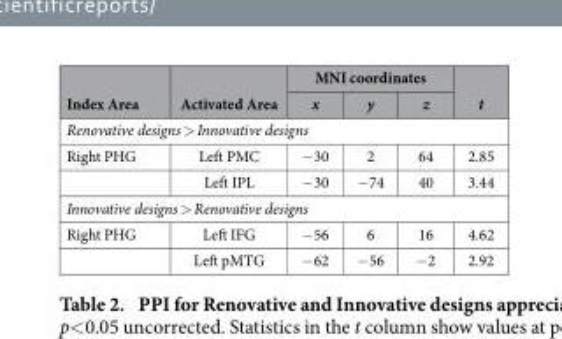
<table><thead><tr><td rowspan="2">Index Area</td><td rowspan="2">Activated Area</td><td colspan="3">MNI coordinates</td><td rowspan="2">t</td></tr><tr><td>x</td><td>y</td><td>z</td></tr></thead><tbody><tr><td colspan="6">Renovative designs &gt; Innovative designs</td></tr><tr><td rowspan="2">Right PHG</td><td>Left PMC</td><td>− 30</td><td>2</td><td>64</td><td>2.85</td></tr><tr><td>Left IPL</td><td>− 30</td><td>− 74</td><td>40</td><td>3.44</td></tr><tr><td colspan="6">Innovative designs &gt; Renovative designs</td></tr><tr><td rowspan="2">Right PHG</td><td>Left IFG</td><td>− 56</td><td>6</td><td>16</td><td>4.62</td></tr><tr><td>Left pMTG</td><td>− 62</td><td>− 56</td><td>− 2</td><td>2.92</td></tr></tbody></table>